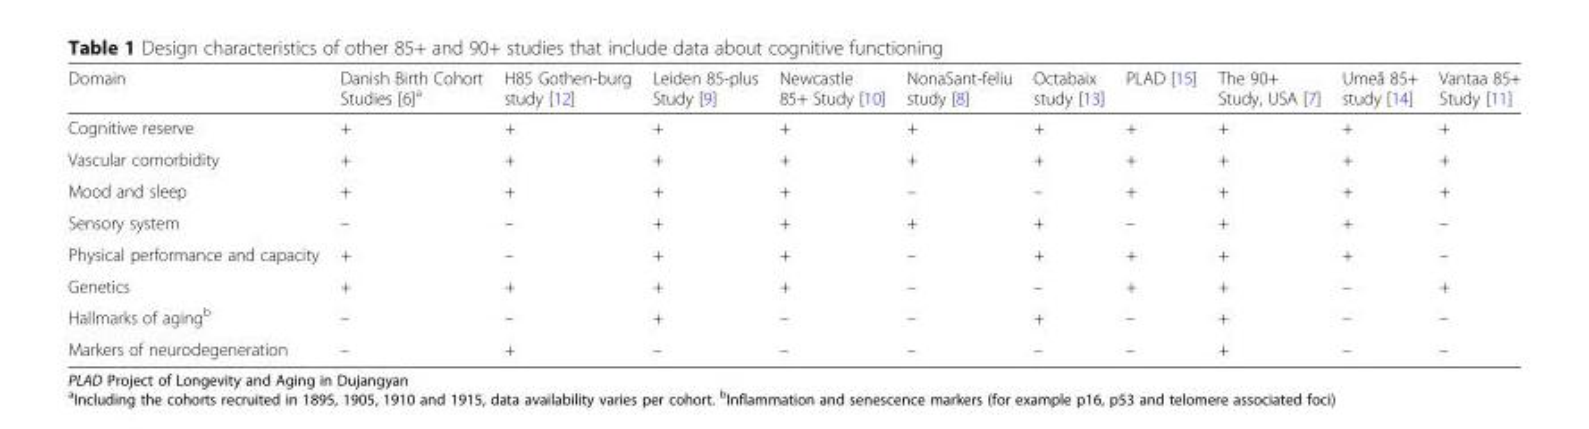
<table><thead><tr><td>Domain</td><td>Danish Birth Cohort Studies [6]<sup>a</sup></td><td>H85 Gothen-burg study [12]</td><td>Leiden 85-plus Study [9]</td><td>Newcastle 85+ Study [10]</td><td>NonaSant-feliu study [8]</td><td>Octabaix study [13]</td><td>PLAD [15]</td><td>The 90+ Study, USA [7]</td><td>Umeå 85+ study [14]</td><td>Vantaa 85+ Study [11]</td></tr></thead><tbody><tr><td>Cognitive reserve</td><td>+</td><td>+</td><td>+</td><td>+</td><td>+</td><td>+</td><td>+</td><td>+</td><td>+</td><td>+</td></tr><tr><td>Vascular comorbidity</td><td>+</td><td>+</td><td>+</td><td>+</td><td>+</td><td>+</td><td>+</td><td>+</td><td>+</td><td>+</td></tr><tr><td>Mood and sleep</td><td>+</td><td>+</td><td>+</td><td>+</td><td>–</td><td>–</td><td>+</td><td>+</td><td>+</td><td>+</td></tr><tr><td>Sensory system</td><td>–</td><td>–</td><td>+</td><td>+</td><td>+</td><td>+</td><td>–</td><td>+</td><td>+</td><td>–</td></tr><tr><td>Physical performance and capacity</td><td>+</td><td>–</td><td>+</td><td>+</td><td>–</td><td>+</td><td>+</td><td>+</td><td>+</td><td>–</td></tr><tr><td>Genetics</td><td>+</td><td>+</td><td>+</td><td>+</td><td>–</td><td>–</td><td>+</td><td>+</td><td>–</td><td>+</td></tr><tr><td>Hallmarks of aging<sup>b</sup></td><td>–</td><td>–</td><td>+</td><td>–</td><td>–</td><td>+</td><td>–</td><td>+</td><td>–</td><td>–</td></tr><tr><td>Markers of neurodegeneration</td><td>–</td><td>+</td><td>–</td><td>–</td><td>–</td><td>–</td><td>–</td><td>+</td><td>–</td><td>–</td></tr></tbody></table>